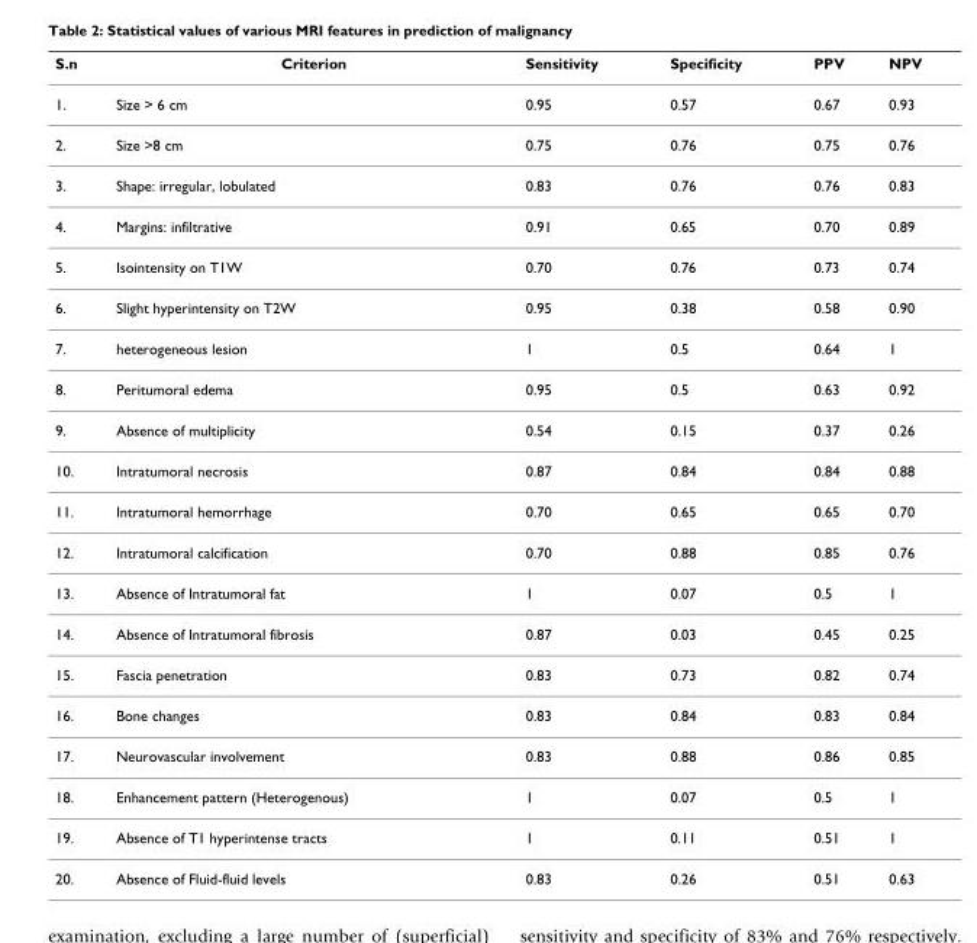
<table><thead><tr><td>S.n</td><td>Criterion</td><td>Sensitivity</td><td>Specificity</td><td>PPV</td><td>NPV</td></tr></thead><tbody><tr><td>1.</td><td>Size &gt; 6 cm</td><td>0.95</td><td>0.57</td><td>0.67</td><td>0.93</td></tr><tr><td>2.</td><td>Size &gt;8 cm</td><td>0.75</td><td>0.76</td><td>0.75</td><td>0.76</td></tr><tr><td>3.</td><td>Shape: irregular, lobulated</td><td>0.83</td><td>0.76</td><td>0.76</td><td>0.83</td></tr><tr><td>4.</td><td>Margins: infiltrative</td><td>0.91</td><td>0.65</td><td>0.70</td><td>0.89</td></tr><tr><td>5.</td><td>Isointensity on T1W</td><td>0.70</td><td>0.76</td><td>0.73</td><td>0.74</td></tr><tr><td>6.</td><td>Slight hyperintensity on T2W</td><td>0.95</td><td>0.38</td><td>0.58</td><td>0.90</td></tr><tr><td>7.</td><td>heterogeneous lesion</td><td>1</td><td>0.5</td><td>0.64</td><td>1</td></tr><tr><td>8.</td><td>Peritumoral edema</td><td>0.95</td><td>0.5</td><td>0.63</td><td>0.92</td></tr><tr><td>9.</td><td>Absence of multiplicity</td><td>0.54</td><td>0.15</td><td>0.37</td><td>0.26</td></tr><tr><td>10.</td><td>Intratumoral necrosis</td><td>0.87</td><td>0.84</td><td>0.84</td><td>0.88</td></tr><tr><td>11.</td><td>Intratumoral hemorrhage</td><td>0.70</td><td>0.65</td><td>0.65</td><td>0.70</td></tr><tr><td>12.</td><td>Intratumoral calcification</td><td>0.70</td><td>0.88</td><td>0.85</td><td>0.76</td></tr><tr><td>13.</td><td>Absence of Intratumoral fat</td><td>1</td><td>0.07</td><td>0.5</td><td>1</td></tr><tr><td>14.</td><td>Absence of Intratumoral fibrosis</td><td>0.87</td><td>0.03</td><td>0.45</td><td>0.25</td></tr><tr><td>15.</td><td>Fascia penetration</td><td>0.83</td><td>0.73</td><td>0.82</td><td>0.74</td></tr><tr><td>16.</td><td>Bone changes</td><td>0.83</td><td>0.84</td><td>0.83</td><td>0.84</td></tr><tr><td>17.</td><td>Neurovascular involvement</td><td>0.83</td><td>0.88</td><td>0.86</td><td>0.85</td></tr><tr><td>18.</td><td>Enhancement pattern (Heterogenous)</td><td>1</td><td>0.07</td><td>0.5</td><td>1</td></tr><tr><td>19.</td><td>Absence of T1 hyperintense tracts</td><td>1</td><td>0.11</td><td>0.51</td><td>1</td></tr><tr><td>20.</td><td>Absence of Fluid-fluid levels</td><td>0.83</td><td>0.26</td><td>0.51</td><td>0.63</td></tr></tbody></table>